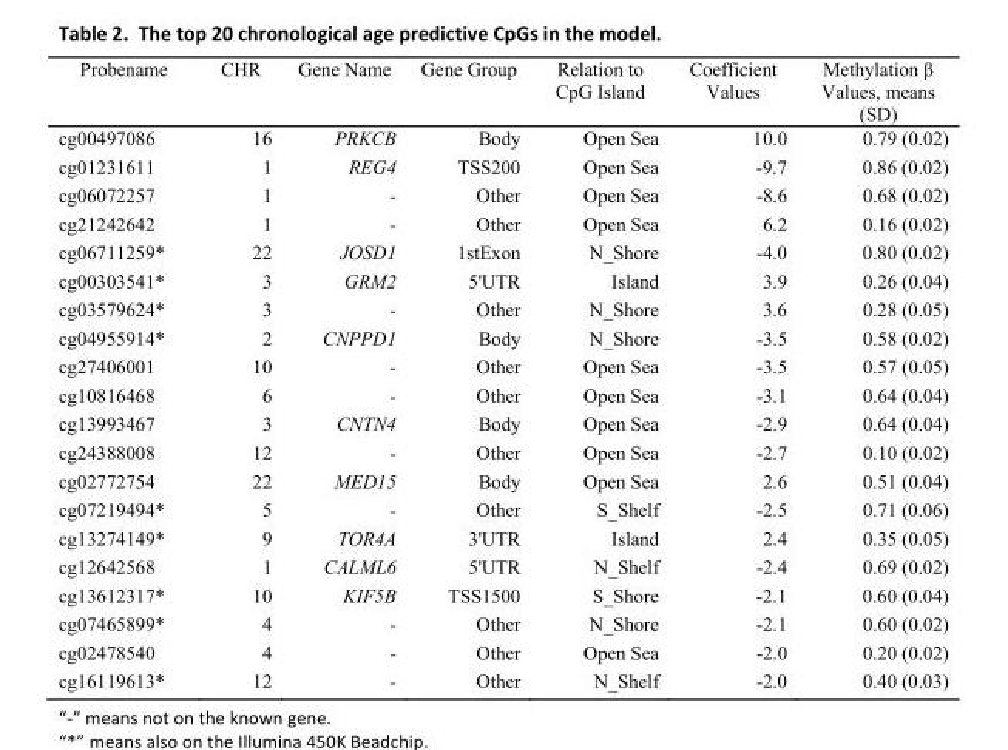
<table><tbody><tr><td>Probename</td><td>CHR</td><td>Gene Name</td><td>Gene Group</td><td>Relation to CpG Island</td><td>Coefficient Values</td><td>Methylation β Values, means (SD)</td></tr><tr><td>cg00497086</td><td>16</td><td>PRKCB</td><td>Body</td><td>Open Sea</td><td>10.0</td><td>0.79 (0.02)</td></tr><tr><td>cg01231611</td><td>1</td><td>REG4</td><td>TSS200</td><td>Open Sea</td><td>-9.7</td><td>0.86 (0.02)</td></tr><tr><td>cg06072257</td><td>1</td><td>-</td><td>Other</td><td>Open Sea</td><td>-8.6</td><td>0.68 (0.02)</td></tr><tr><td>cg21242642</td><td>1</td><td>-</td><td>Other</td><td>Open Sea</td><td>6.2</td><td>0.16 (0.02)</td></tr><tr><td>cg06711259*</td><td>22</td><td>JOSD1</td><td>1stExon</td><td>N_Shore</td><td>-4.0</td><td>0.80 (0.02)</td></tr><tr><td>cg00303541*</td><td>3</td><td>GRM2</td><td>5&#x27;UTR</td><td>Island</td><td>3.9</td><td>0.26 (0.04)</td></tr><tr><td>cg03579624*</td><td>3</td><td>-</td><td>Other</td><td>N_Shore</td><td>3.6</td><td>0.28 (0.05)</td></tr><tr><td>cg04955914*</td><td>2</td><td>CNPPD1</td><td>Body</td><td>N_Shore</td><td>-3.5</td><td>0.58 (0.02)</td></tr><tr><td>cg27406001</td><td>10</td><td>-</td><td>Other</td><td>Open Sea</td><td>-3.5</td><td>0.57 (0.05)</td></tr><tr><td>cg10816468</td><td>6</td><td>-</td><td>Other</td><td>Open Sea</td><td>-3.1</td><td>0.64 (0.04)</td></tr><tr><td>cg13993467</td><td>3</td><td>CNTN4</td><td>Body</td><td>Open Sea</td><td>-2.9</td><td>0.64 (0.04)</td></tr><tr><td>cg24388008</td><td>12</td><td>-</td><td>Other</td><td>Open Sea</td><td>-2.7</td><td>0.10 (0.02)</td></tr><tr><td>cg02772754</td><td>22</td><td>MED15</td><td>Body</td><td>Open Sea</td><td>2.6</td><td>0.51 (0.04)</td></tr><tr><td>cg07219494*</td><td>5</td><td>-</td><td>Other</td><td>S_Shelf</td><td>-2.5</td><td>0.71 (0.06)</td></tr><tr><td>cg13274149*</td><td>9</td><td>TOR4A</td><td>3&#x27;UTR</td><td>Island</td><td>2.4</td><td>0.35 (0.05)</td></tr><tr><td>cg12642568</td><td>1</td><td>CALML6</td><td>5&#x27;UTR</td><td>N_Shelf</td><td>-2.4</td><td>0.69 (0.02)</td></tr><tr><td>cg13612317*</td><td>10</td><td>KIF5B</td><td>TSS1500</td><td>S_Shore</td><td>-2.1</td><td>0.60 (0.04)</td></tr><tr><td>cg07465899*</td><td>4</td><td>-</td><td>Other</td><td>N_Shore</td><td>-2.1</td><td>0.60 (0.02)</td></tr><tr><td>cg02478540</td><td>4</td><td>-</td><td>Other</td><td>Open Sea</td><td>-2.0</td><td>0.20 (0.02)</td></tr><tr><td>cg16119613*</td><td>12</td><td>-</td><td>Other</td><td>N_Shelf</td><td>-2.0</td><td>0.40 (0.03)</td></tr></tbody></table>